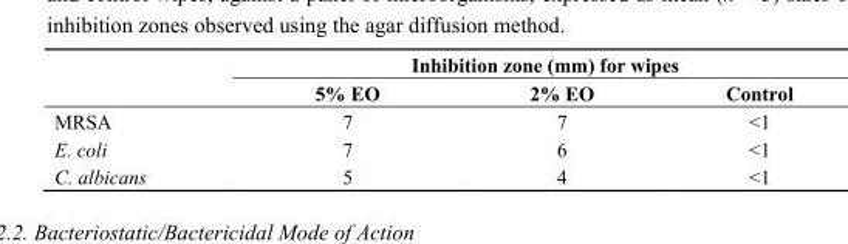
<table><thead><tr><td rowspan="2"></td><td colspan="3">Inhibition zone (mm) for wipes</td></tr><tr><td>5% EO</td><td>2% EO</td><td>Control</td></tr></thead><tbody><tr><td>MRSA</td><td>7</td><td>7</td><td>&lt;1</td></tr><tr><td>E. coli</td><td>7</td><td>6</td><td>&lt;1</td></tr><tr><td>C. albicans</td><td>5</td><td>4</td><td>&lt;1</td></tr></tbody></table>